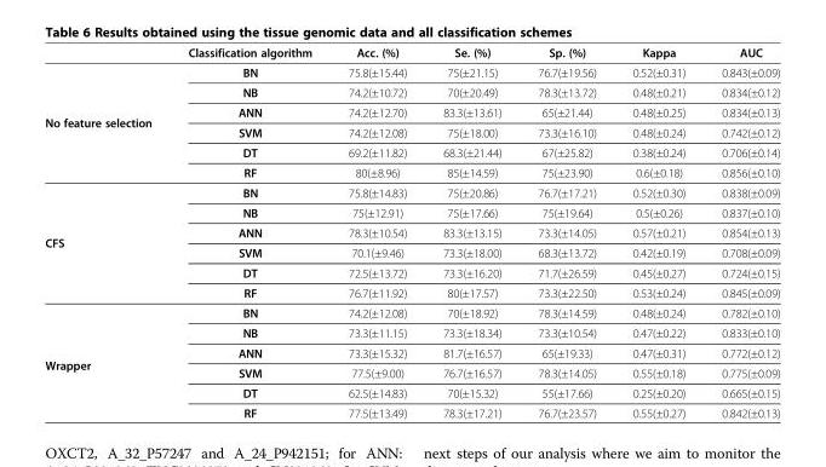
<table><thead><tr><td></td><td>Classification algorithm</td><td>Acc. (%)</td><td>Se. (%)</td><td>Sp. (%)</td><td>Kappa</td><td>AUC</td></tr></thead><tbody><tr><td rowspan="6">No feature selection</td><td>BN</td><td>75.8(±15.44)</td><td>75(±21.15)</td><td>76.7(±19.56)</td><td>0.52(±0.31)</td><td>0.843(±0.09)</td></tr><tr><td>NB</td><td>74.2(±10.72)</td><td>70(±20.49)</td><td>78.3(±13.72)</td><td>0.48(±0.21)</td><td>0.834(±0.12)</td></tr><tr><td>ANN</td><td>74.2(±12.70)</td><td>83.3(±13.61)</td><td>65(±21.44)</td><td>0.48(±0.25)</td><td>0.834(±0.13)</td></tr><tr><td>SVM</td><td>74.2(±12.08)</td><td>75(±18.00)</td><td>73.3(±16.10)</td><td>0.48(±0.24)</td><td>0.742(±0.12)</td></tr><tr><td>DT</td><td>69.2(±11.82)</td><td>68.3(±21.44)</td><td>67(±25.82)</td><td>0.38(±0.24)</td><td>0.706(±0.14)</td></tr><tr><td>RF</td><td>80(±8.96)</td><td>85(±14.59)</td><td>75(±23.90)</td><td>0.6(±0.18)</td><td>0.856(±0.10)</td></tr><tr><td rowspan="6">CFS</td><td>BN</td><td>75.8(±14.83)</td><td>75(±20.86)</td><td>76.7(±17.21)</td><td>0.52(±0.30)</td><td>0.838(±0.09)</td></tr><tr><td>NB</td><td>75(±12.91)</td><td>75(±17.66)</td><td>75(±19.64)</td><td>0.5(±0.26)</td><td>0.837(±0.10)</td></tr><tr><td>ANN</td><td>78.3(±10.54)</td><td>83.3(±13.15)</td><td>73.3(±14.05)</td><td>0.57(±0.21)</td><td>0.854(±0.13)</td></tr><tr><td>SVM</td><td>70.1(±9.46)</td><td>73.3(±18.00)</td><td>68.3(±13.72)</td><td>0.42(±0.19)</td><td>0.708(±0.09)</td></tr><tr><td>DT</td><td>72.5(±13.72)</td><td>73.3(±16.20)</td><td>71.7(±26.59)</td><td>0.45(±0.27)</td><td>0.724(±0.15)</td></tr><tr><td>RF</td><td>76.7(±11.92)</td><td>80(±17.57)</td><td>73.3(±22.50)</td><td>0.53(±0.24)</td><td>0.845(±0.09)</td></tr><tr><td rowspan="6">Wrapper</td><td>BN</td><td>74.2(±12.08)</td><td>70(±18.92)</td><td>78.3(±14.59)</td><td>0.48(±0.24)</td><td>0.782(±0.10)</td></tr><tr><td>NB</td><td>73.3(±11.15)</td><td>73.3(±18.34)</td><td>73.3(±10.54)</td><td>0.47(±0.22)</td><td>0.833(±0.10)</td></tr><tr><td>ANN</td><td>73.3(±15.32)</td><td>81.7(±16.57)</td><td>65(±19.33)</td><td>0.47(±0.31)</td><td>0.772(±0.12)</td></tr><tr><td>SVM</td><td>77.5(±9.00)</td><td>76.7(±16.57)</td><td>78.3(±14.05)</td><td>0.55(±0.18)</td><td>0.775(±0.09)</td></tr><tr><td>DT</td><td>62.5(±14.83)</td><td>70(±15.32)</td><td>55(±17.66)</td><td>0.25(±0.20)</td><td>0.665(±0.15)</td></tr><tr><td>RF</td><td>77.5(±13.49)</td><td>78.3(±17.21)</td><td>76.7(±23.57)</td><td>0.55(±0.27)</td><td>0.842(±0.13)</td></tr></tbody></table>